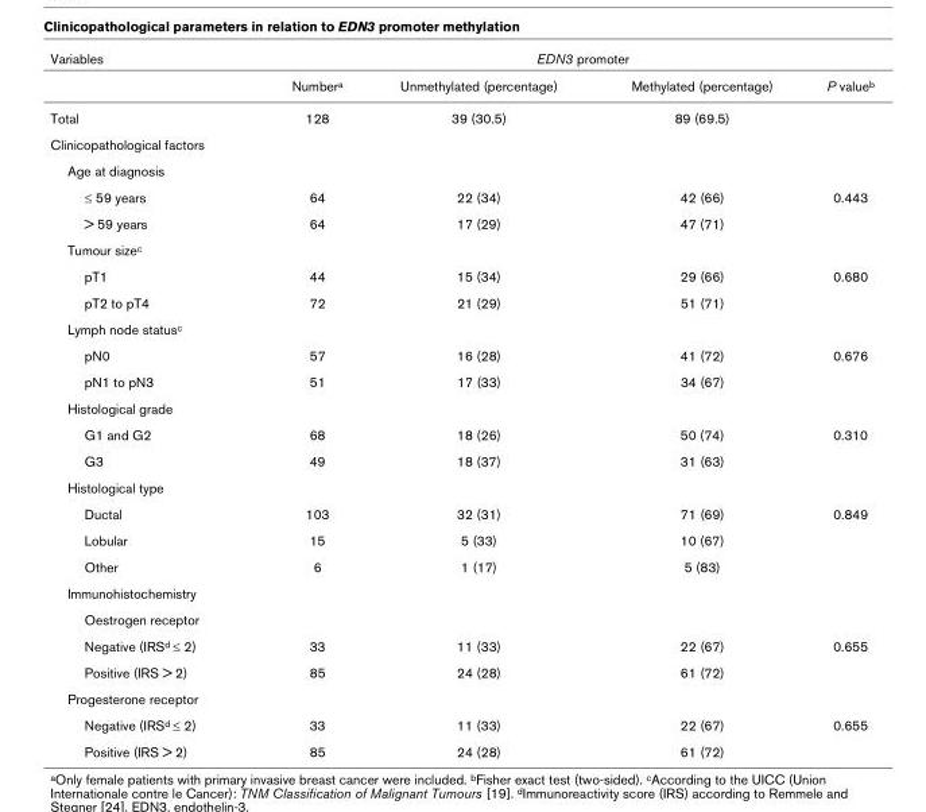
<table><thead><tr><td rowspan="2">Variables</td><td colspan="4">EDN3 promoter</td></tr><tr><td>Number<sup>a</sup></td><td>Unmethylated (percentage)</td><td>Methylated (percentage)</td><td>P value<sup>b</sup></td></tr></thead><tbody><tr><td>Total</td><td>128</td><td>39 (30.5)</td><td>89 (69.5)</td><td></td></tr><tr><td colspan="5">Clinicopathological factors</td></tr><tr><td colspan="5">Age at diagnosis</td></tr><tr><td>≤ 59 years</td><td>64</td><td>22 (34)</td><td>42 (66)</td><td>0.443</td></tr><tr><td>&gt; 59 years</td><td>64</td><td>17 (29)</td><td>47 (71)</td><td></td></tr><tr><td colspan="5">Tumour size<sup>c</sup></td></tr><tr><td>pT1</td><td>44</td><td>15 (34)</td><td>29 (66)</td><td>0.680</td></tr><tr><td>pT2 to pT4</td><td>72</td><td>21 (29)</td><td>51 (71)</td><td></td></tr><tr><td colspan="5">Lymph node status<sup>c</sup></td></tr><tr><td>pN0</td><td>57</td><td>16 (28)</td><td>41 (72)</td><td>0.676</td></tr><tr><td>pN1 to pN3</td><td>51</td><td>17 (33)</td><td>34 (67)</td><td></td></tr><tr><td colspan="5">Histological grade</td></tr><tr><td>G1 and G2</td><td>68</td><td>18 (26)</td><td>50 (74)</td><td>0.310</td></tr><tr><td>G3</td><td>49</td><td>18 (37)</td><td>31 (63)</td><td></td></tr><tr><td colspan="5">Histological type</td></tr><tr><td>Ductal</td><td>103</td><td>32 (31)</td><td>71 (69)</td><td>0.849</td></tr><tr><td>Lobular</td><td>15</td><td>5 (33)</td><td>10 (67)</td><td></td></tr><tr><td>Other</td><td>6</td><td>1 (17)</td><td>5 (83)</td><td></td></tr><tr><td colspan="5">Immunohistochemistry</td></tr><tr><td colspan="5">Oestrogen receptor</td></tr><tr><td>Negative (IRS<sup>d</sup> ≤ 2)</td><td>33</td><td>11 (33)</td><td>22 (67)</td><td>0.655</td></tr><tr><td>Positive (IRS &gt; 2)</td><td>85</td><td>24 (28)</td><td>61 (72)</td><td></td></tr><tr><td colspan="5">Progesterone receptor</td></tr><tr><td>Negative (IRS<sup>d</sup> ≤ 2)</td><td>33</td><td>11 (33)</td><td>22 (67)</td><td>0.655</td></tr><tr><td>Positive (IRS &gt; 2)</td><td>85</td><td>24 (28)</td><td>61 (72)</td><td></td></tr></tbody></table>